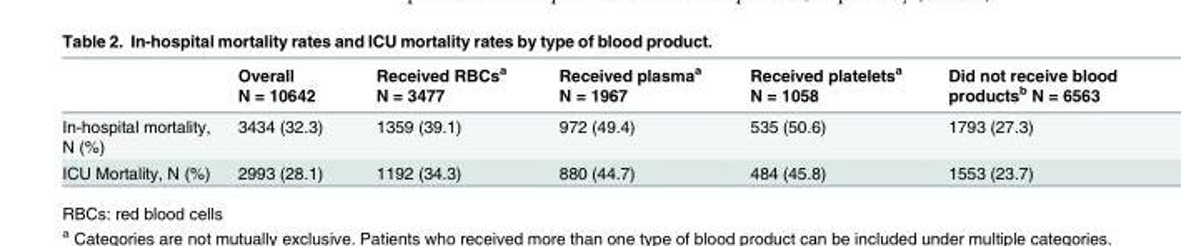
<table><thead><tr><td></td><td>Overall N = 10642</td><td>Received RBCs<sup>a</sup> N = 3477</td><td>Received plasma<sup>a</sup> N = 1967</td><td>Received platelets<sup>a</sup> N = 1058</td><td>Did not receive blood products<sup>b</sup> N = 6563</td></tr></thead><tbody><tr><td>In-hospital mortality, N (%)</td><td>3434 (32.3)</td><td>1359 (39.1)</td><td>972 (49.4)</td><td>535 (50.6)</td><td>1793 (27.3)</td></tr><tr><td>ICU Mortality, N (%)</td><td>2993 (28.1)</td><td>1192 (34.3)</td><td>880 (44.7)</td><td>484 (45.8)</td><td>1553 (23.7)</td></tr></tbody></table>